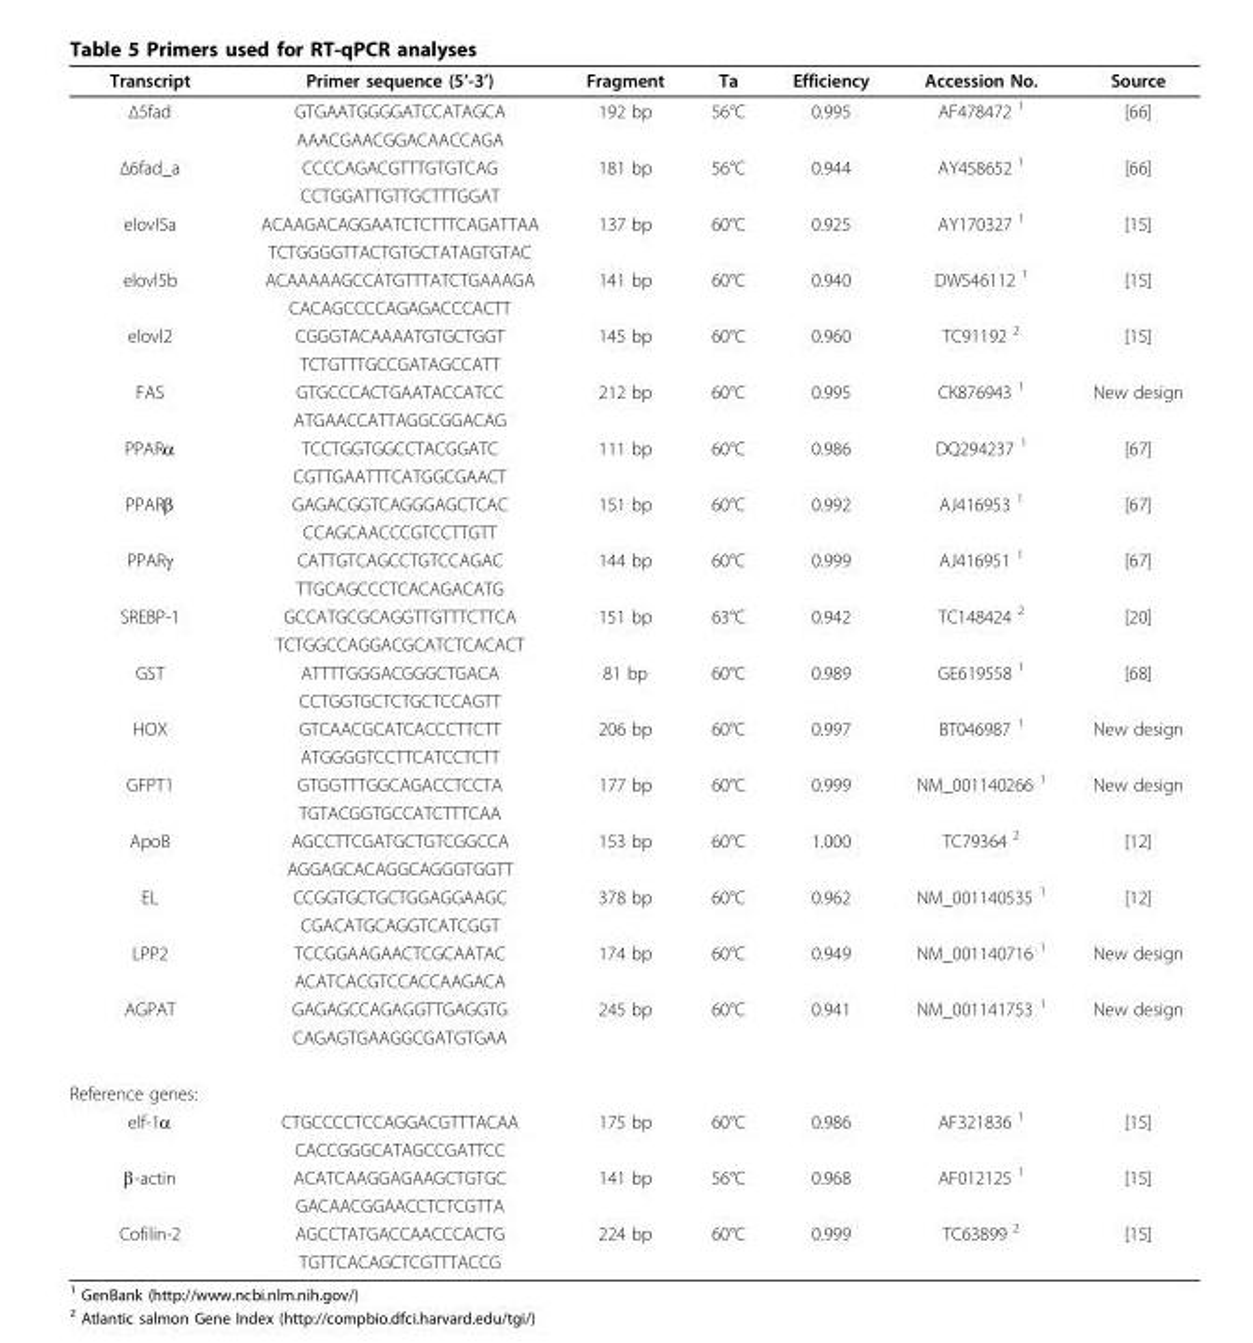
<table><thead><tr><td>Transcript</td><td>Primer sequence (5’-3’)</td><td>Fragment</td><td>Ta</td><td>Efficiency</td><td>Accession No.</td><td>Source</td></tr></thead><tbody><tr><td rowspan="2">Δ5fad</td><td>GTGAATGGGGATCCATAGCA</td><td>192 bp</td><td>56°C</td><td>0.995</td><td>AF478472 <sup>1</sup></td><td>[66]</td></tr><tr><td>AAACGAACGGACAACCAGA</td><td></td><td></td><td></td><td></td><td></td></tr><tr><td rowspan="2">Δ6fad_a</td><td>CCCCAGACGTTTGTGTCAG</td><td>181 bp</td><td>56°C</td><td>0.944</td><td>AY458652 <sup>1</sup></td><td>[66]</td></tr><tr><td>CCTGGATTGTTGCTTTGGAT</td><td></td><td></td><td></td><td></td><td></td></tr><tr><td rowspan="2">elovl5a</td><td>ACAAGACAGGAATCTCTTTCAGATTAA</td><td>137 bp</td><td>60°C</td><td>0.925</td><td>AY170327 <sup>1</sup></td><td>[15]</td></tr><tr><td>TCTGGGGTTACTGTGCTATAGTGTAC</td><td></td><td></td><td></td><td></td><td></td></tr><tr><td rowspan="2">elovl5b</td><td>ACAAAAAGCCATGTTTATCTGAAAGA</td><td>141 bp</td><td>60°C</td><td>0.940</td><td>DW546112 <sup>1</sup></td><td>[15]</td></tr><tr><td>CACAGCCCCAGAGACCCACTT</td><td></td><td></td><td></td><td></td><td></td></tr><tr><td rowspan="2">elovl2</td><td>CGGGTACAAAATGTGCTGGT</td><td>145 bp</td><td>60°C</td><td>0.960</td><td>TC91192 <sup>2</sup></td><td>[15]</td></tr><tr><td>TCTGTTTGCCGATAGCCATT</td><td></td><td></td><td></td><td></td><td></td></tr><tr><td rowspan="2">FAS</td><td>GTGCCCACTGAATACCATCC</td><td>212 bp</td><td>60°C</td><td>0.995</td><td>CK876943 <sup>1</sup></td><td>New design</td></tr><tr><td>ATGAACCATTAGGCGGACAG</td><td></td><td></td><td></td><td></td><td></td></tr><tr><td rowspan="2">PPARα</td><td>TCCTGGTGGCCTACGGATC</td><td>111 bp</td><td>60°C</td><td>0.986</td><td>DQ294237 <sup>1</sup></td><td>[67]</td></tr><tr><td>CGTTGAATTTCATGGCGAACT</td><td></td><td></td><td></td><td></td><td></td></tr><tr><td rowspan="2">PPARβ</td><td>GAGACGGTCAGGGAGCTCAC</td><td>151 bp</td><td>60°C</td><td>0.992</td><td>AJ416953 <sup>1</sup></td><td>[67]</td></tr><tr><td>CCAGCAACCCGTCCTTGTT</td><td></td><td></td><td></td><td></td><td></td></tr><tr><td rowspan="2">PPARγ</td><td>CATTGTCAGCCTGTCCAGAC</td><td>144 bp</td><td>60°C</td><td>0.999</td><td>AJ416951 <sup>1</sup></td><td>[67]</td></tr><tr><td>TTGCAGCCCTCACAGACATG</td><td></td><td></td><td></td><td></td><td></td></tr><tr><td rowspan="2">SREBP-1</td><td>GCCATGCGCAGGTTGTTTCTTCA</td><td>151 bp</td><td>63°C</td><td>0.942</td><td>TC148424 <sup>2</sup></td><td>[20]</td></tr><tr><td>TCTGGCCAGGACGCATCTCACACT</td><td></td><td></td><td></td><td></td><td></td></tr><tr><td rowspan="2">GST</td><td>ATTTTGGGACGGGCTGACA</td><td>81 bp</td><td>60°C</td><td>0.989</td><td>GE619558 <sup>1</sup></td><td>[68]</td></tr><tr><td>CCTGGTGCTCTGCTCCAGTT</td><td></td><td></td><td></td><td></td><td></td></tr><tr><td rowspan="2">HOX</td><td>GTCAACGCATCACCCTTCTT</td><td>206 bp</td><td>60°C</td><td>0.997</td><td>BT046987 <sup>1</sup></td><td>New design</td></tr><tr><td>ATGGGGTCCTTCATCCTCTT</td><td></td><td></td><td></td><td></td><td></td></tr><tr><td rowspan="2">GFPT1</td><td>GTGGTTTGGCAGACCTCCTA</td><td>177 bp</td><td>60°C</td><td>0.999</td><td>NM_001140266 <sup>1</sup></td><td>New design</td></tr><tr><td>TGTACGGTGCCATCTTTCAA</td><td></td><td></td><td></td><td></td><td></td></tr><tr><td rowspan="2">ApoB</td><td>AGCCTTCGATGCTGTCGGCCA</td><td>153 bp</td><td>60°C</td><td>1.000</td><td>TC79364 <sup>2</sup></td><td>[12]</td></tr><tr><td>AGGAGCACAGGCAGGGTGGTT</td><td></td><td></td><td></td><td></td><td></td></tr><tr><td rowspan="2">EL</td><td>CCGGTGCTGCTGGAGGAAGC</td><td>378 bp</td><td>60°C</td><td>0.962</td><td>NM_001140535 <sup>1</sup></td><td>[12]</td></tr><tr><td>CGACATGCAGGTCATCGGT</td><td></td><td></td><td></td><td></td><td></td></tr><tr><td rowspan="2">LPP2</td><td>TCCGGAAGAACTCGCAATAC</td><td>174 bp</td><td>60°C</td><td>0.949</td><td>NM_001140716 <sup>1</sup></td><td>New design</td></tr><tr><td>ACATCACGTCCACCAAGACA</td><td></td><td></td><td></td><td></td><td></td></tr><tr><td rowspan="2">AGPAT</td><td>GAGAGCCAGAGGTTGAGGTG</td><td>245 bp</td><td>60°C</td><td>0.941</td><td>NM_001141753 <sup>1</sup></td><td>New design</td></tr><tr><td>CAGAGTGAAGGCGATGTGAA</td><td></td><td></td><td></td><td></td><td></td></tr><tr><td colspan="7">Reference genes:</td></tr><tr><td rowspan="2">elf-1α</td><td>CTGCCCCTCCAGGACGTTTACAA</td><td>175 bp</td><td>60°C</td><td>0.986</td><td>AF321836 <sup>1</sup></td><td>[15]</td></tr><tr><td>CACCGGGCATAGCCGATTCC</td><td></td><td></td><td></td><td></td><td></td></tr><tr><td rowspan="2">β-actin</td><td>ACATCAAGGAGAAGCTGTGC</td><td>141 bp</td><td>56°C</td><td>0.968</td><td>AF012125 <sup>1</sup></td><td>[15]</td></tr><tr><td>GACAACGGAACCTCTCGTTA</td><td></td><td></td><td></td><td></td><td></td></tr><tr><td rowspan="2">Cofilin-2</td><td>AGCCTATGACCAACCCACTG</td><td>224 bp</td><td>60°C</td><td>0.999</td><td>TC63899 <sup>2</sup></td><td>[15]</td></tr><tr><td>TGTTCACAGCTCGTTTACCG</td><td></td><td></td><td></td><td></td><td></td></tr></tbody></table>